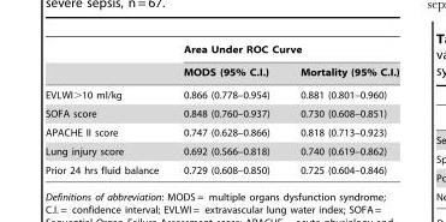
<table><thead><tr><td rowspan="2"></td><td colspan="2">Area Under ROC Curve</td></tr><tr><td>MODS (95% C.I.)</td><td>Mortality (95% C.I.)</td></tr></thead><tbody><tr><td>EVLWI&gt;10 ml/kg</td><td>0.866 (0.778–0.954)</td><td>0.881 (0.801–0.960)</td></tr><tr><td>SOFA score</td><td>0.848 (0.760–0.937)</td><td>0.730 (0.608–0.851)</td></tr><tr><td>APACHE II score</td><td>0.747 (0.628–0.866)</td><td>0.818 (0.713–0.923)</td></tr><tr><td>Lung injury score</td><td>0.692 (0.566–0.818)</td><td>0.740 (0.619–0.862)</td></tr><tr><td>Prior 24 hrs fluid balance</td><td>0.729 (0.608–0.850)</td><td>0.725 (0.604–0.846)</td></tr></tbody></table>